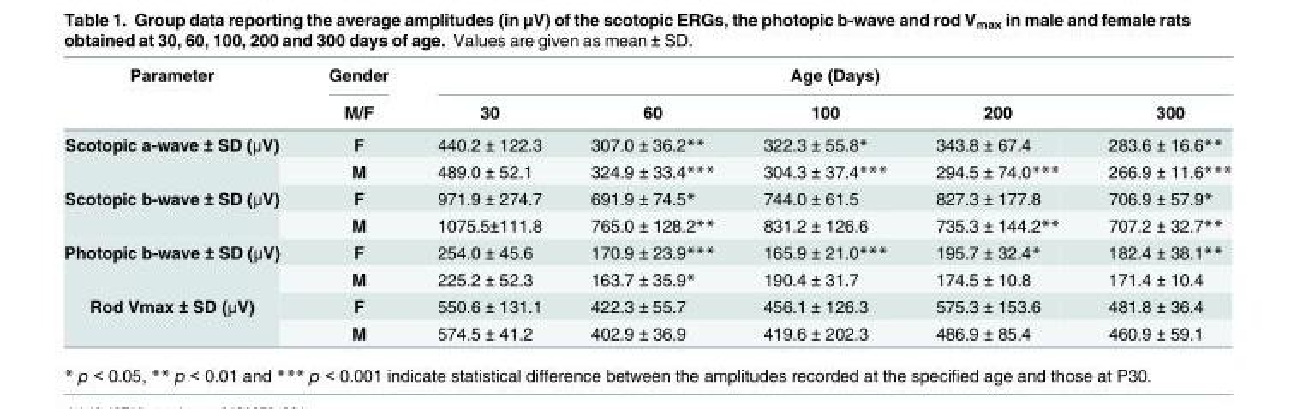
<table><thead><tr><td rowspan="2">Parameter</td><td rowspan="2">Gender M/F</td><td colspan="5">Age (Days)</td></tr><tr><td>30</td><td>60</td><td>100</td><td>200</td><td>300</td></tr></thead><tbody><tr><td rowspan="2">Scotopic a-wave ± SD (μV)</td><td>F</td><td>440.2 ± 122.3</td><td>307.0 ± 36.2**</td><td>322.3 ± 55.8*</td><td>343.8 ± 67.4</td><td>283.6 ± 16.6**</td></tr><tr><td>M</td><td>489.0 ± 52.1</td><td>324.9 ± 33.4***</td><td>304.3 ± 37.4***</td><td>294.5 ± 74.0***</td><td>266.9 ± 11.6***</td></tr><tr><td rowspan="2">Scotopic b-wave ± SD (μV)</td><td>F</td><td>971.9 ± 274.7</td><td>691.9 ± 74.5*</td><td>744.0 ± 61.5</td><td>827.3 ± 177.8</td><td>706.9 ± 57.9*</td></tr><tr><td>M</td><td>1075.5±111.8</td><td>765.0 ± 128.2**</td><td>831.2 ± 126.6</td><td>735.3 ± 144.2**</td><td>707.2 ± 32.7**</td></tr><tr><td rowspan="2">Photopic b-wave ± SD (μV)</td><td>F</td><td>254.0 ± 45.6</td><td>170.9 ± 23.9***</td><td>165.9 ± 21.0***</td><td>195.7 ± 32.4*</td><td>182.4 ± 38.1**</td></tr><tr><td>M</td><td>225.2 ± 52.3</td><td>163.7 ± 35.9*</td><td>190.4 ± 31.7</td><td>174.5 ± 10.8</td><td>171.4 ± 10.4</td></tr><tr><td rowspan="2">Rod Vmax ± SD (μV)</td><td>F</td><td>550.6 ± 131.1</td><td>422.3 ± 55.7</td><td>456.1 ± 126.3</td><td>575.3 ± 153.6</td><td>481.8 ± 36.4</td></tr><tr><td>M</td><td>574.5 ± 41.2</td><td>402.9 ± 36.9</td><td>419.6 ± 202.3</td><td>486.9 ± 85.4</td><td>460.9 ± 59.1</td></tr></tbody></table>